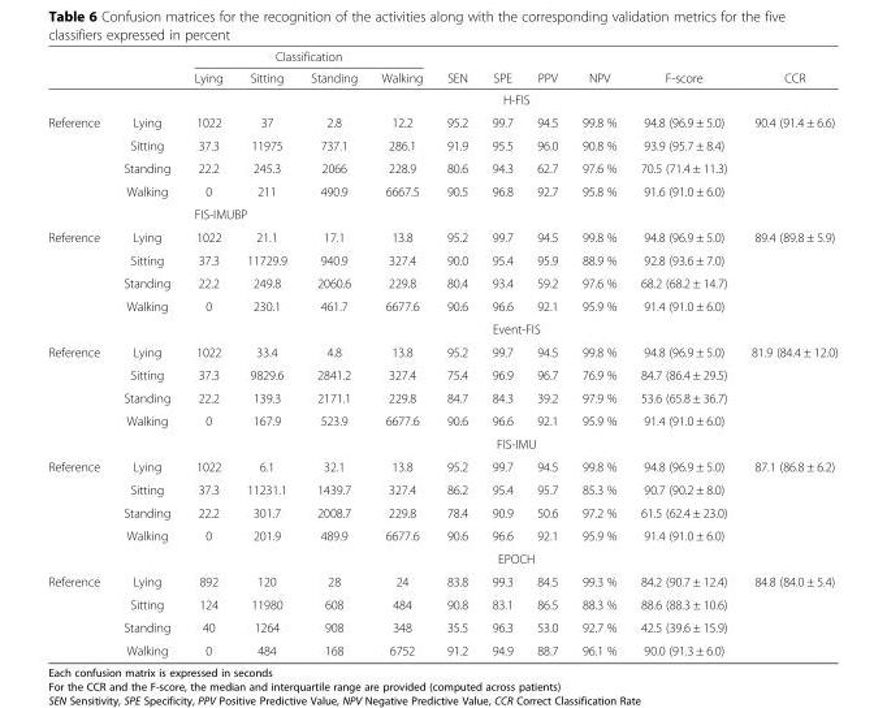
<table><thead><tr><td rowspan="2"></td><td rowspan="2"></td><td colspan="4">Classification</td><td rowspan="2">SEN</td><td rowspan="2">SPE</td><td rowspan="2">PPV</td><td rowspan="2">NPV</td><td rowspan="2">F-score</td><td rowspan="2">CCR</td></tr><tr><td>Lying</td><td>Sitting</td><td>Standing</td><td>Walking</td></tr></thead><tbody><tr><td></td><td></td><td colspan="10">H-FIS</td></tr><tr><td rowspan="5">Reference</td><td>Lying</td><td>1022</td><td>37</td><td>2.8</td><td>12.2</td><td>95.2</td><td>99.7</td><td>94.5</td><td>99.8 %</td><td>94.8 (96.9 ± 5.0)</td><td rowspan="4">90.4 (91.4 ± 6.6)</td></tr><tr><td>Sitting</td><td>37.3</td><td>11975</td><td>737.1</td><td>286.1</td><td>91.9</td><td>95.5</td><td>96.0</td><td>90.8 %</td><td>93.9 (95.7 ± 8.4)</td></tr><tr><td>Standing</td><td>22.2</td><td>245.3</td><td>2066</td><td>228.9</td><td>80.6</td><td>94.3</td><td>62.7</td><td>97.6 %</td><td>70.5 (71.4 ± 11.3)</td></tr><tr><td>Walking</td><td>0</td><td>211</td><td>490.9</td><td>6667.5</td><td>90.5</td><td>96.8</td><td>92.7</td><td>95.8 %</td><td>91.6 (91.0 ± 6.0)</td></tr><tr><td></td><td colspan="10">FIS-IMUBP</td></tr><tr><td rowspan="5">Reference</td><td>Lying</td><td>1022</td><td>21.1</td><td>17.1</td><td>13.8</td><td>95.2</td><td>99.7</td><td>94.5</td><td>99.8 %</td><td>94.8 (96.9 ± 5.0)</td><td rowspan="4">89.4 (89.8 ± 5.9)</td></tr><tr><td>Sitting</td><td>37.3</td><td>11729.9</td><td>940.9</td><td>327.4</td><td>90.0</td><td>95.4</td><td>95.9</td><td>88.9 %</td><td>92.8 (93.6 ± 7.0)</td></tr><tr><td>Standing</td><td>22.2</td><td>249.8</td><td>2060.6</td><td>229.8</td><td>80.4</td><td>93.4</td><td>59.2</td><td>97.6 %</td><td>68.2 (68.2 ± 14.7)</td></tr><tr><td>Walking</td><td>0</td><td>230.1</td><td>461.7</td><td>6677.6</td><td>90.6</td><td>96.6</td><td>92.1</td><td>95.9 %</td><td>91.4 (91.0 ± 6.0)</td></tr><tr><td></td><td colspan="10">Event-FIS</td></tr><tr><td rowspan="5">Reference</td><td>Lying</td><td>1022</td><td>33.4</td><td>4.8</td><td>13.8</td><td>95.2</td><td>99.7</td><td>94.5</td><td>99.8 %</td><td>94.8 (96.9 ± 5.0)</td><td rowspan="4">81.9 (84.4 ± 12.0)</td></tr><tr><td>Sitting</td><td>37.3</td><td>9829.6</td><td>2841.2</td><td>327.4</td><td>75.4</td><td>96.9</td><td>96.7</td><td>76.9 %</td><td>84.7 (86.4 ± 29.5)</td></tr><tr><td>Standing</td><td>22.2</td><td>139.3</td><td>2171.1</td><td>229.8</td><td>84.7</td><td>84.3</td><td>39.2</td><td>97.9 %</td><td>53.6 (65.8 ± 36.7)</td></tr><tr><td>Walking</td><td>0</td><td>167.9</td><td>523.9</td><td>6677.6</td><td>90.6</td><td>96.6</td><td>92.1</td><td>95.9 %</td><td>91.4 (91.0 ± 6.0)</td></tr><tr><td></td><td colspan="10">FIS-IMU</td></tr><tr><td rowspan="5">Reference</td><td>Lying</td><td>1022</td><td>6.1</td><td>32.1</td><td>13.8</td><td>95.2</td><td>99.7</td><td>94.5</td><td>99.8 %</td><td>94.8 (96.9 ± 5.0)</td><td rowspan="4">87.1 (86.8 ± 6.2)</td></tr><tr><td>Sitting</td><td>37.3</td><td>11231.1</td><td>1439.7</td><td>327.4</td><td>86.2</td><td>95.4</td><td>95.7</td><td>85.3 %</td><td>90.7 (90.2 ± 8.0)</td></tr><tr><td>Standing</td><td>22.2</td><td>301.7</td><td>2008.7</td><td>229.8</td><td>78.4</td><td>90.9</td><td>50.6</td><td>97.2 %</td><td>61.5 (62.4 ± 23.0)</td></tr><tr><td>Walking</td><td>0</td><td>201.9</td><td>489.9</td><td>6677.6</td><td>90.6</td><td>96.6</td><td>92.1</td><td>95.9 %</td><td>91.4 (91.0 ± 6.0)</td></tr><tr><td></td><td colspan="10">EPOCH</td></tr><tr><td rowspan="4">Reference</td><td>Lying</td><td>892</td><td>120</td><td>28</td><td>24</td><td>83.8</td><td>99.3</td><td>84.5</td><td>99.3 %</td><td>84.2 (90.7 ± 12.4)</td><td rowspan="4">84.8 (84.0 ± 5.4)</td></tr><tr><td>Sitting</td><td>124</td><td>11980</td><td>608</td><td>484</td><td>90.8</td><td>83.1</td><td>86.5</td><td>88.3 %</td><td>88.6 (88.3 ± 10.6)</td></tr><tr><td>Standing</td><td>40</td><td>1264</td><td>908</td><td>348</td><td>35.5</td><td>96.3</td><td>53.0</td><td>92.7 %</td><td>42.5 (39.6 ± 15.9)</td></tr><tr><td>Walking</td><td>0</td><td>484</td><td>168</td><td>6752</td><td>91.2</td><td>94.9</td><td>88.7</td><td>96.1 %</td><td>90.0 (91.3 ± 6.0)</td></tr></tbody></table>